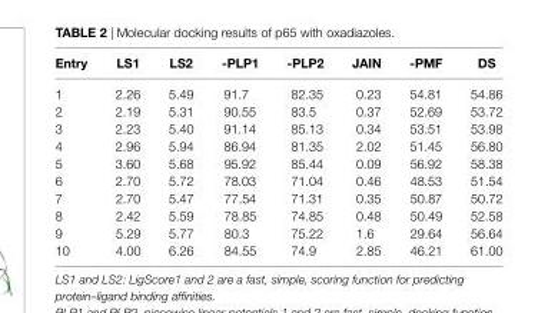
<table><thead><tr><td>entry</td><td>ls1</td><td>ls2</td><td>-PlP1</td><td>-PlP2</td><td>Jain</td><td>-PMF</td><td>Ds</td></tr></thead><tbody><tr><td>1</td><td>2.26</td><td>5.49</td><td>91.7</td><td>82.35</td><td>0.23</td><td>54.81</td><td>54.86</td></tr><tr><td>2</td><td>2.19</td><td>5.31</td><td>90.55</td><td>83.5</td><td>0.37</td><td>52.69</td><td>53.72</td></tr><tr><td>3</td><td>2.23</td><td>5.40</td><td>91.14</td><td>85.13</td><td>0.34</td><td>53.51</td><td>53.98</td></tr><tr><td>4</td><td>2.96</td><td>5.94</td><td>86.94</td><td>81.35</td><td>2.02</td><td>51.45</td><td>56.80</td></tr><tr><td>5</td><td>3.60</td><td>5.68</td><td>95.92</td><td>85.44</td><td>0.09</td><td>56.92</td><td>58.38</td></tr><tr><td>6</td><td>2.70</td><td>5.72</td><td>78.03</td><td>71.04</td><td>0.46</td><td>48.53</td><td>51.54</td></tr><tr><td>7</td><td>2.70</td><td>5.47</td><td>77.54</td><td>71.31</td><td>0.35</td><td>50.87</td><td>50.72</td></tr><tr><td>8</td><td>2.42</td><td>5.59</td><td>78.85</td><td>74.85</td><td>0.48</td><td>50.49</td><td>52.58</td></tr><tr><td>9</td><td>5.29</td><td>5.77</td><td>80.3</td><td>75.22</td><td>1.6</td><td>29.64</td><td>56.64</td></tr><tr><td>10</td><td>4.00</td><td>6.26</td><td>84.55</td><td>74.9</td><td>2.85</td><td>46.21</td><td>61.00</td></tr></tbody></table>